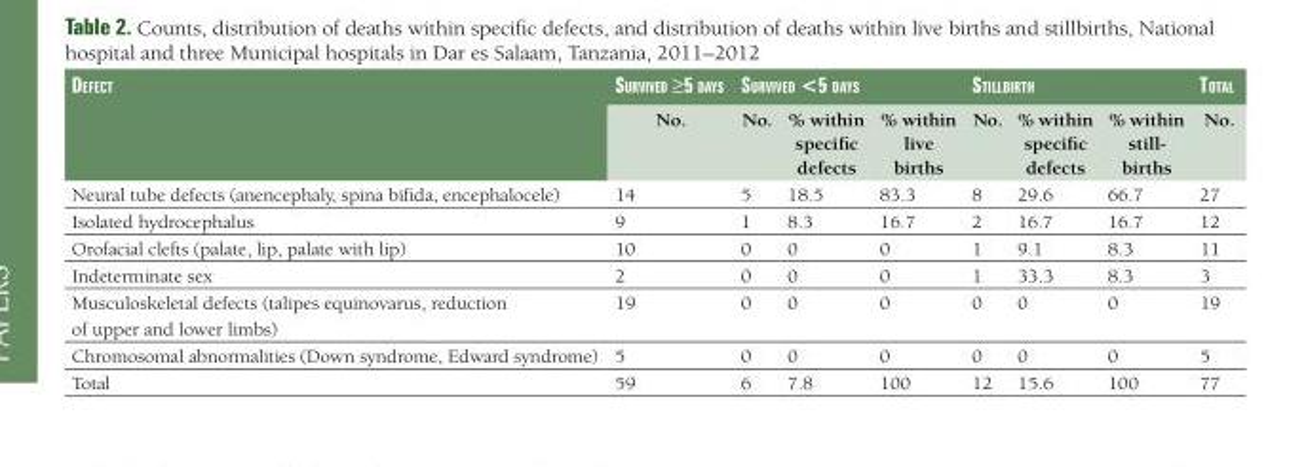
<table><thead><tr><td rowspan="2">defect</td><td rowspan="2">survived ≥5 days No.</td><td colspan="3">survived &lt;5 days</td><td colspan="3">stiLLBirth</td><td rowspan="2">totaL No.</td></tr><tr><td>No.</td><td>% within specific defects</td><td>% within live births</td><td>No.</td><td>% within specific defects</td><td>% within still- births</td></tr></thead><tbody><tr><td>Neural tube defects (anencephaly, spina bifida, encephalocele)</td><td>14</td><td>5</td><td>18.5</td><td>83.3</td><td>8</td><td>29.6</td><td>66.7</td><td>27</td></tr><tr><td>Isolated hydrocephalus</td><td>9</td><td>1</td><td>8.3</td><td>16.7</td><td>2</td><td>16.7</td><td>16.7</td><td>12</td></tr><tr><td>Orofacial clefts (palate, lip, palate with lip)</td><td>10</td><td>0</td><td>0</td><td>0</td><td>1</td><td>9.1</td><td>8.3</td><td>11</td></tr><tr><td>Indeterminate sex</td><td>2</td><td>0</td><td>0</td><td>0</td><td>1</td><td>33.3</td><td>8.3</td><td>3</td></tr><tr><td>Musculoskeletal defects (talipes equinovarus, reduction of upper and lower limbs)</td><td>19</td><td>0</td><td>0</td><td>0</td><td>0</td><td>0</td><td>0</td><td>19</td></tr><tr><td>Chromosomal abnormalities (Down syndrome, Edward syndrome)</td><td>5</td><td>0</td><td>0</td><td>0</td><td>0</td><td>0</td><td>0</td><td>5</td></tr><tr><td>Total</td><td>59</td><td>6</td><td>7.8</td><td>100</td><td>12</td><td>15.6</td><td>100</td><td>77</td></tr></tbody></table>